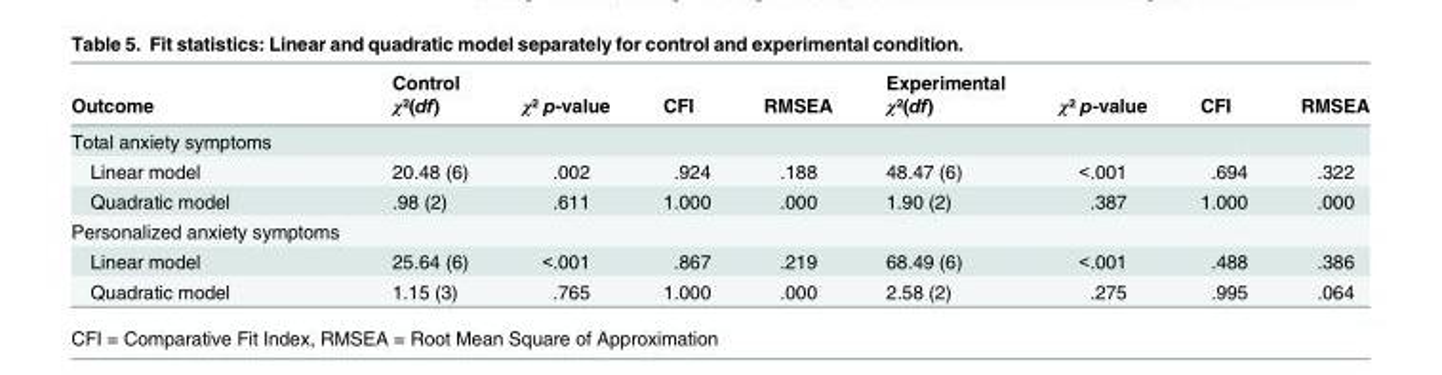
<table><thead><tr><td rowspan="2">Outcome</td><td rowspan="2">Control χ²(df)</td><td rowspan="2">χ² p-value</td><td rowspan="2">CFI</td><td rowspan="2">RMSEA</td><td rowspan="2">Experimental χ²(df)</td><td rowspan="2">χ² p-value</td><td rowspan="2">CFI</td><td rowspan="2">RMSEA</td></tr><tr></tr></thead><tbody><tr><td colspan="9">Total anxiety symptoms</td></tr><tr><td>Linear model</td><td>20.48 (6)</td><td>.002</td><td>.924</td><td>.188</td><td>48.47 (6)</td><td>&lt;.001</td><td>.694</td><td>.322</td></tr><tr><td>Quadratic model</td><td>.98 (2)</td><td>.611</td><td>1.000</td><td>.000</td><td>1.90 (2)</td><td>.387</td><td>1.000</td><td>.000</td></tr><tr><td colspan="9">Personalized anxiety symptoms</td></tr><tr><td>Linear model</td><td>25.64 (6)</td><td>&lt;.001</td><td>.867</td><td>.219</td><td>68.49 (6)</td><td>&lt;.001</td><td>.488</td><td>.386</td></tr><tr><td>Quadratic model</td><td>1.15 (3)</td><td>.765</td><td>1.000</td><td>.000</td><td>2.58 (2)</td><td>.275</td><td>.995</td><td>.064</td></tr></tbody></table>